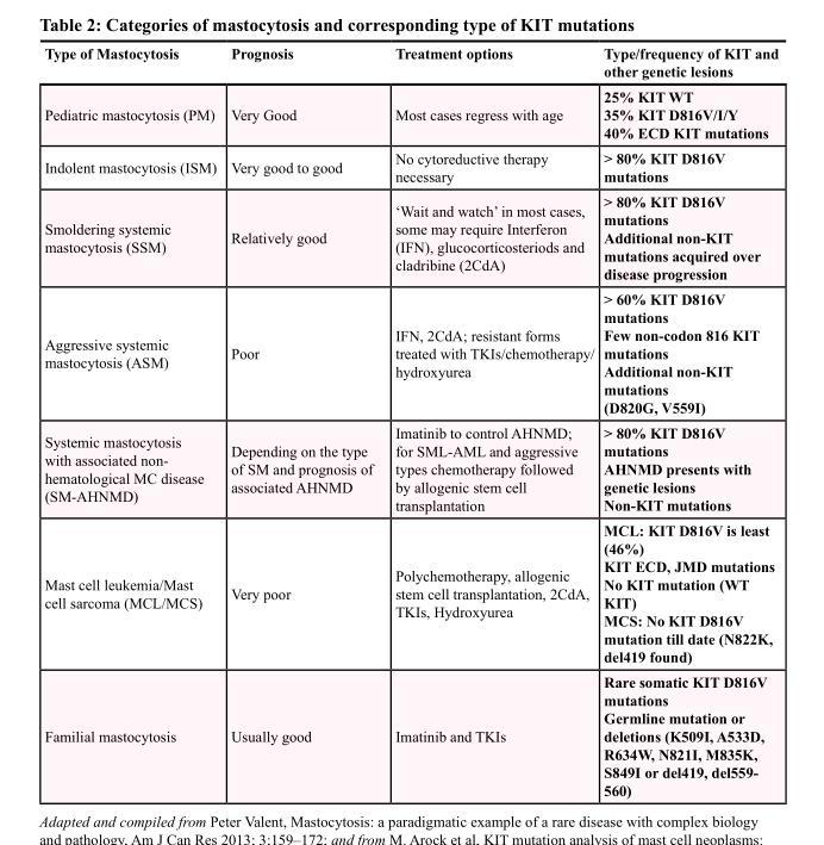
<table><thead><tr><td>Type of Mastocytosis</td><td>Prognosis</td><td>Treatment options</td><td>Type/frequency of KIT and other genetic lesions</td></tr></thead><tbody><tr><td>Pediatric mastocytosis (PM)</td><td>Very Good</td><td>Most cases regress with age</td><td>25% KIT WT 35% KIT D816V/I/Y 40% ECD KIT mutations</td></tr><tr><td>Indolent mastocytosis (ISM)</td><td>Very good to good</td><td>No cytoreductive therapy necessary</td><td>&gt; 80% KIT D816V mutations</td></tr><tr><td>Smoldering systemic mastocytosis (SSM)</td><td>Relatively good</td><td>‘Wait and watch’ in most cases, some may require Interferon (IFN), glucocorticosteriods and cladribine (2CdA)</td><td>&gt; 80% KIT D816V mutations Additional non-KIT mutations acquired over disease progression</td></tr><tr><td>Aggressive systemic mastocytosis (ASM)</td><td>Poor</td><td>IFN, 2CdA; resistant forms treated with TKIs/chemotherapy/ hydroxyurea</td><td>&gt; 60% KIT D816V mutations Few non-codon 816 KIT mutations Additional non-KIT mutations (D820G, V559I)</td></tr><tr><td>Systemic mastocytosis with associated non- hematological MC disease (SM-AHNMD)</td><td>Depending on the type of SM and prognosis of associated AHNMD</td><td>Imatinib to control AHNMD; for SML-AML and aggressive types chemotherapy followed by allogenic stem cell transplantation</td><td>&gt; 80% KIT D816V mutations AHNMD presents with genetic lesions Non-KIT mutations</td></tr><tr><td>Mast cell leukemia/Mast cell sarcoma (MCL/MCS)</td><td>Very poor</td><td>Polychemotherapy, allogenic stem cell transplantation, 2CdA, TKIs, Hydroxyurea</td><td>MCL: KIT D816V is least (46%) KIT ECD, JMD mutations No KIT mutation (WT KIT) MCS: No KIT D816V mutation till date (N822K, del419 found)</td></tr><tr><td>Familial mastocytosis</td><td>Usually good</td><td>Imatinib and TKIs</td><td>Rare somatic KIT D816V mutations Germline mutation or deletions (K509I, A533D, R634W, N821I, M835K, S849I or del419, del559- 560)</td></tr></tbody></table>